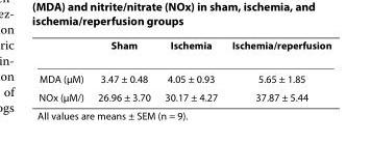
<table><thead><tr><td></td><td>Sham</td><td>Ischemia</td><td>Ischemia/reperfusion</td></tr></thead><tbody><tr><td>MDA (μM)</td><td>3.47 ± 0.48</td><td>4.05 ± 0.93</td><td>5.65 ± 1.85</td></tr><tr><td>NOx (μM/)</td><td>26.96 ± 3.70</td><td>30.17 ± 4.27</td><td>37.87 ± 5.44</td></tr></tbody></table>